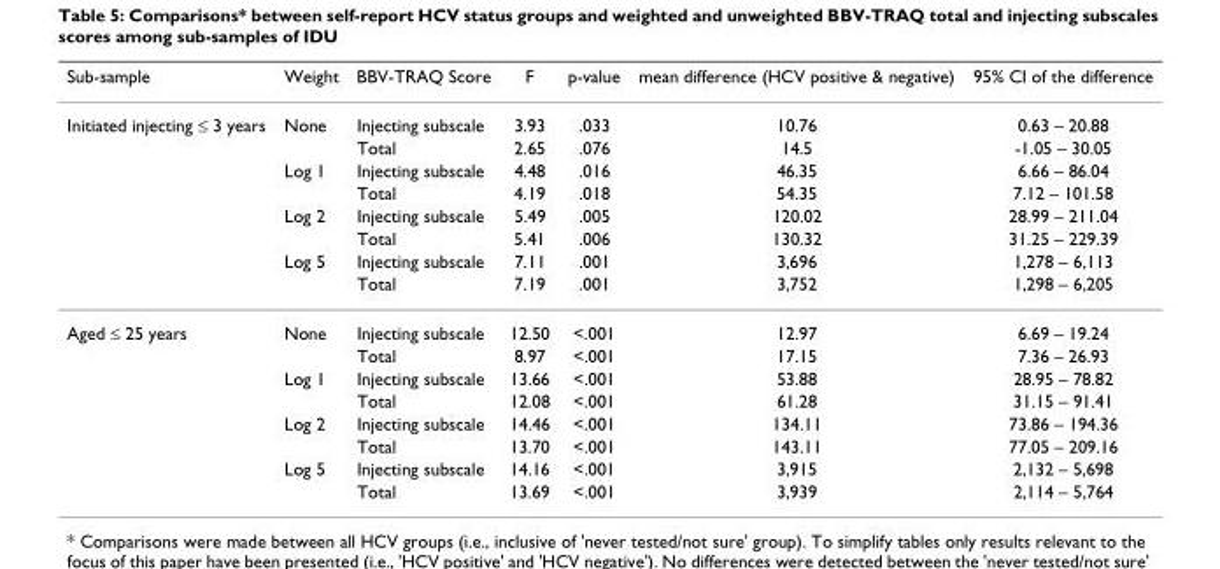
<table><thead><tr><td>Sub-sample</td><td>Weight</td><td>BBV-TRAQ Score</td><td>F</td><td>p-value</td><td>mean difference (HCV positive &amp; negative)</td><td>95% CI of the difference</td></tr></thead><tbody><tr><td rowspan="8">Initiated injecting ≤ 3 years</td><td>None</td><td>Injecting subscale</td><td>3.93</td><td>.033</td><td>10.76</td><td>0.63 – 20.88</td></tr><tr><td></td><td>Total</td><td>2.65</td><td>.076</td><td>14.5</td><td>-1.05 – 30.05</td></tr><tr><td>Log 1</td><td>Injecting subscale</td><td>4.48</td><td>.016</td><td>46.35</td><td>6.66 – 86.04</td></tr><tr><td></td><td>Total</td><td>4.19</td><td>.018</td><td>54.35</td><td>7.12 – 101.58</td></tr><tr><td>Log 2</td><td>Injecting subscale</td><td>5.49</td><td>.005</td><td>120.02</td><td>28.99 – 211.04</td></tr><tr><td></td><td>Total</td><td>5.41</td><td>.006</td><td>130.32</td><td>31.25 – 229.39</td></tr><tr><td>Log 5</td><td>Injecting subscale</td><td>7.11</td><td>.001</td><td>3,696</td><td>1,278 – 6,113</td></tr><tr><td></td><td>Total</td><td>7.19</td><td>.001</td><td>3,752</td><td>1,298 – 6,205</td></tr><tr><td rowspan="8">Aged ≤ 25 years</td><td>None</td><td>Injecting subscale</td><td>12.50</td><td>&lt;.001</td><td>12.97</td><td>6.69 – 19.24</td></tr><tr><td></td><td>Total</td><td>8.97</td><td>&lt;.001</td><td>17.15</td><td>7.36 – 26.93</td></tr><tr><td>Log 1</td><td>Injecting subscale</td><td>13.66</td><td>&lt;.001</td><td>53.88</td><td>28.95 – 78.82</td></tr><tr><td></td><td>Total</td><td>12.08</td><td>&lt;.001</td><td>61.28</td><td>31.15 – 91.41</td></tr><tr><td>Log 2</td><td>Injecting subscale</td><td>14.46</td><td>&lt;.001</td><td>134.11</td><td>73.86 – 194.36</td></tr><tr><td></td><td>Total</td><td>13.70</td><td>&lt;.001</td><td>143.11</td><td>77.05 – 209.16</td></tr><tr><td>Log 5</td><td>Injecting subscale</td><td>14.16</td><td>&lt;.001</td><td>3,915</td><td>2,132 – 5,698</td></tr><tr><td></td><td>Total</td><td>13.69</td><td>&lt;.001</td><td>3,939</td><td>2,114 – 5,764</td></tr></tbody></table>